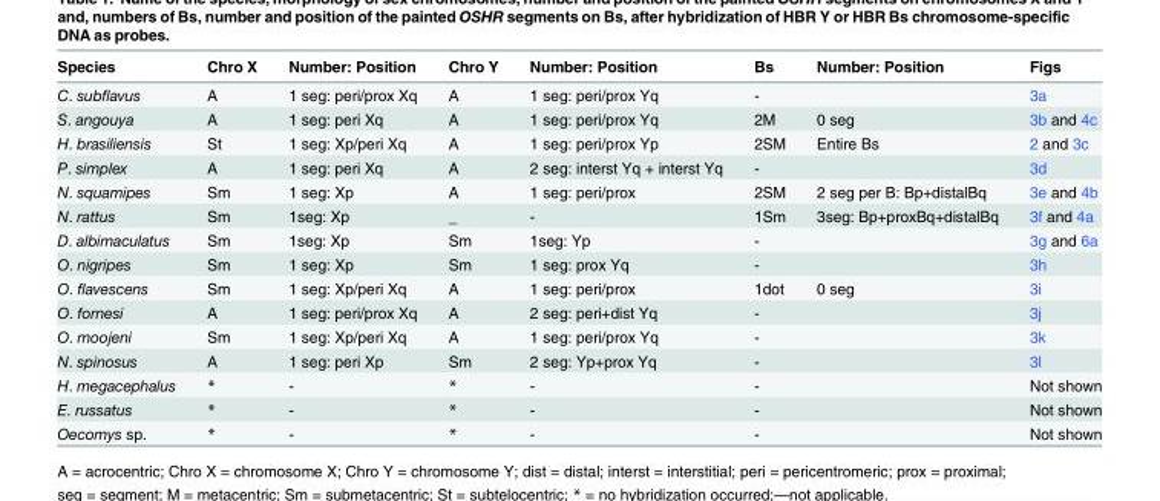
<table><thead><tr><td>Species</td><td>Chro X</td><td>Number: Position</td><td>Chro Y</td><td>Number: Position</td><td>Bs</td><td>Number: Position</td><td>Figs</td></tr></thead><tbody><tr><td>C. subflavus</td><td>A</td><td>1 seg: peri/prox Xq</td><td>A</td><td>1 seg: peri/prox Yq</td><td>-</td><td></td><td>3a</td></tr><tr><td>S. angouya</td><td>A</td><td>1 seg: peri Xq</td><td>A</td><td>1 seg: peri/prox Yq</td><td>2M</td><td>0 seg</td><td>3b and 4c</td></tr><tr><td>H. brasiliensis</td><td>St</td><td>1 seg: Xp/peri Xq</td><td>A</td><td>1 seg: peri/prox Yp</td><td>2SM</td><td>Entire Bs</td><td>2 and 3c</td></tr><tr><td>P. simplex</td><td>A</td><td>1 seg: peri Xq</td><td>A</td><td>2 seg: interst Yq + interst Yq</td><td>-</td><td></td><td>3d</td></tr><tr><td>N. squamipes</td><td>Sm</td><td>1 seg: Xp</td><td>A</td><td>1 seg: peri/prox</td><td>2SM</td><td>2 seg per B: Bp+distalBq</td><td>3e and 4b</td></tr><tr><td>N. rattus</td><td>Sm</td><td>1seg: Xp</td><td>_</td><td>-</td><td>1Sm</td><td>3seg: Bp+proxBq+distalBq</td><td>3f and 4a</td></tr><tr><td>D. albimaculatus</td><td>Sm</td><td>1seg: Xp</td><td>Sm</td><td>1seg: Yp</td><td>-</td><td></td><td>3g and 6a</td></tr><tr><td>O. nigripes</td><td>Sm</td><td>1 seg: Xp</td><td>Sm</td><td>1 seg: prox Yq</td><td>-</td><td></td><td>3h</td></tr><tr><td>O. flavescens</td><td>Sm</td><td>1 seg: Xp/peri Xq</td><td>A</td><td>1 seg: peri/prox</td><td>1dot</td><td>0 seg</td><td>3i</td></tr><tr><td>O. fornesi</td><td>A</td><td>1 seg: peri/prox Xq</td><td>A</td><td>2 seg: peri+dist Yq</td><td>-</td><td></td><td>3j</td></tr><tr><td>O. moojeni</td><td>Sm</td><td>1 seg: Xp/peri Xq</td><td>A</td><td>1 seg: peri/prox Yq</td><td>-</td><td></td><td>3k</td></tr><tr><td>N. spinosus</td><td>A</td><td>1 seg: peri Xp</td><td>Sm</td><td>2 seg: Yp+prox Yq</td><td>-</td><td></td><td>3l</td></tr><tr><td>H. megacephalus</td><td>*</td><td>-</td><td>*</td><td>-</td><td>-</td><td></td><td>Not shown</td></tr><tr><td>E. russatus</td><td>*</td><td>-</td><td>*</td><td>-</td><td>-</td><td></td><td>Not shown</td></tr><tr><td>Oecomys sp.</td><td>*</td><td>-</td><td>*</td><td>-</td><td>-</td><td></td><td>Not shown</td></tr></tbody></table>